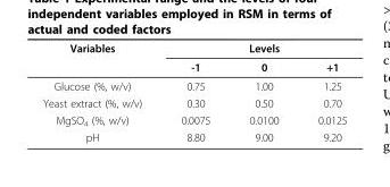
<table><tbody><tr><td rowspan="2">Variables</td><td colspan="3">Levels</td></tr><tr><td>-1</td><td>0</td><td>+1</td></tr><tr><td>Glucose (%, w/v)</td><td>0.75</td><td>1.00</td><td>1.25</td></tr><tr><td>Yeast extract (%, w/v)</td><td>0.30</td><td>0.50</td><td>0.70</td></tr><tr><td>MgSO<sub>4</sub> (%, w/v)</td><td>0.0075</td><td>0.0100</td><td>0.0125</td></tr><tr><td>pH</td><td>8.80</td><td>9.00</td><td>9.20</td></tr></tbody></table>